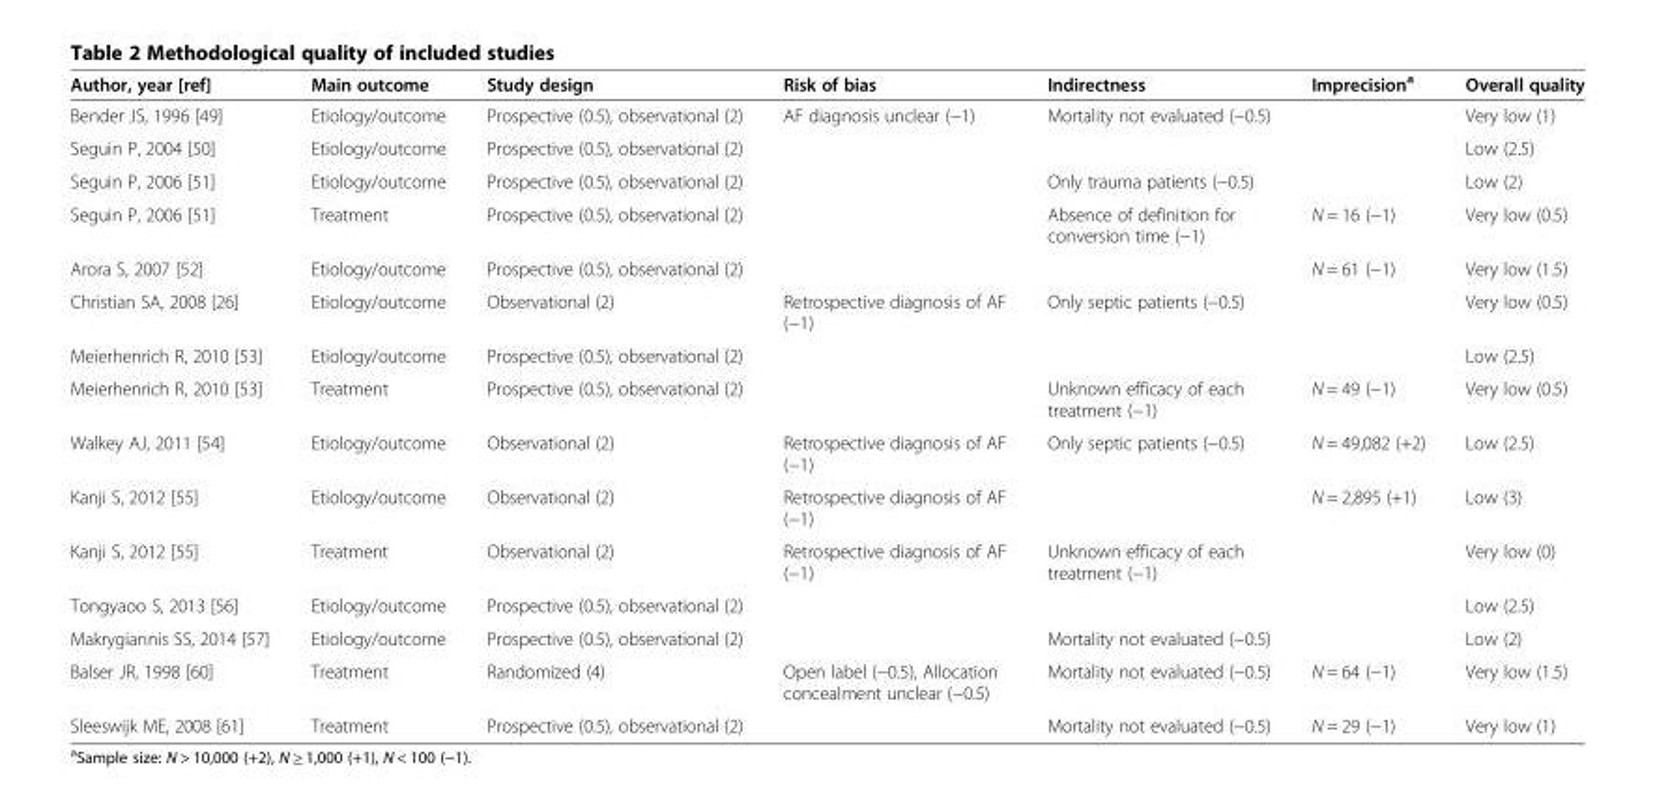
<table><thead><tr><td>Author, year [ref]</td><td>Main outcome</td><td>Study design</td><td>Risk of bias</td><td>Indirectness</td><td>Imprecision<sup>a</sup></td><td>Overall quality</td></tr></thead><tbody><tr><td>Bender JS, 1996 [49]</td><td>Etiology/outcome</td><td>Prospective (0.5), observational (2)</td><td>AF diagnosis unclear (−1)</td><td>Mortality not evaluated (−0.5)</td><td></td><td>Very low (1)</td></tr><tr><td>Seguin P, 2004 [50]</td><td>Etiology/outcome</td><td>Prospective (0.5), observational (2)</td><td></td><td></td><td></td><td>Low (2.5)</td></tr><tr><td>Seguin P, 2006 [51]</td><td>Etiology/outcome</td><td>Prospective (0.5), observational (2)</td><td></td><td>Only trauma patients (−0.5)</td><td></td><td>Low (2)</td></tr><tr><td>Seguin P, 2006 [51]</td><td>Treatment</td><td>Prospective (0.5), observational (2)</td><td></td><td>Absence of definition for conversion time (−1)</td><td>N = 16 (−1)</td><td>Very low (0.5)</td></tr><tr><td>Arora S, 2007 [52]</td><td>Etiology/outcome</td><td>Prospective (0.5), observational (2)</td><td></td><td></td><td>N = 61 (−1)</td><td>Very low (1.5)</td></tr><tr><td>Christian SA, 2008 [26]</td><td>Etiology/outcome</td><td>Observational (2)</td><td>Retrospective diagnosis of AF (−1)</td><td>Only septic patients (−0.5)</td><td></td><td>Very low (0.5)</td></tr><tr><td>Meierhenrich R, 2010 [53]</td><td>Etiology/outcome</td><td>Prospective (0.5), observational (2)</td><td></td><td></td><td></td><td>Low (2.5)</td></tr><tr><td>Meierhenrich R, 2010 [53]</td><td>Treatment</td><td>Prospective (0.5), observational (2)</td><td></td><td>Unknown efficacy of each treatment (−1)</td><td>N = 49 (−1)</td><td>Very low (0.5)</td></tr><tr><td>Walkey AJ, 2011 [54]</td><td>Etiology/outcome</td><td>Observational (2)</td><td>Retrospective diagnosis of AF (−1)</td><td>Only septic patients (−0.5)</td><td>N = 49,082 (+2)</td><td>Low (2.5)</td></tr><tr><td>Kanji S, 2012 [55]</td><td>Etiology/outcome</td><td>Observational (2)</td><td>Retrospective diagnosis of AF (−1)</td><td></td><td>N = 2,895 (+1)</td><td>Low (3)</td></tr><tr><td>Kanji S, 2012 [55]</td><td>Treatment</td><td>Observational (2)</td><td>Retrospective diagnosis of AF (−1)</td><td>Unknown efficacy of each treatment (−1)</td><td></td><td>Very low (0)</td></tr><tr><td>Tongyaoo S, 2013 [56]</td><td>Etiology/outcome</td><td>Prospective (0.5), observational (2)</td><td></td><td></td><td></td><td>Low (2.5)</td></tr><tr><td>Makrygiannis SS, 2014 [57]</td><td>Etiology/outcome</td><td>Prospective (0.5), observational (2)</td><td></td><td>Mortality not evaluated (−0.5)</td><td></td><td>Low (2)</td></tr><tr><td>Balser JR, 1998 [60]</td><td>Treatment</td><td>Randomized (4)</td><td>Open label (−0.5), Allocation concealment unclear (−0.5)</td><td>Mortality not evaluated (−0.5)</td><td>N = 64 (−1)</td><td>Very low (1.5)</td></tr><tr><td>Sleeswijk ME, 2008 [61]</td><td>Treatment</td><td>Prospective (0.5), observational (2)</td><td></td><td>Mortality not evaluated (−0.5)</td><td>N = 29 (−1)</td><td>Very low (1)</td></tr></tbody></table>